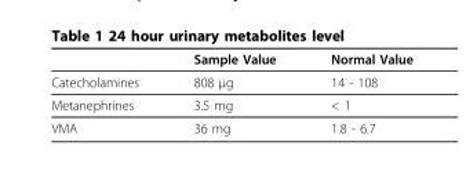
<table><thead><tr><td></td><td>Sample Value</td><td>Normal Value</td></tr></thead><tbody><tr><td>Catecholamines</td><td>808 μg</td><td>14 - 108</td></tr><tr><td>Metanephrines</td><td>3.5 mg</td><td>&lt; 1</td></tr><tr><td>VMA</td><td>36 mg</td><td>1.8 - 6.7</td></tr></tbody></table>